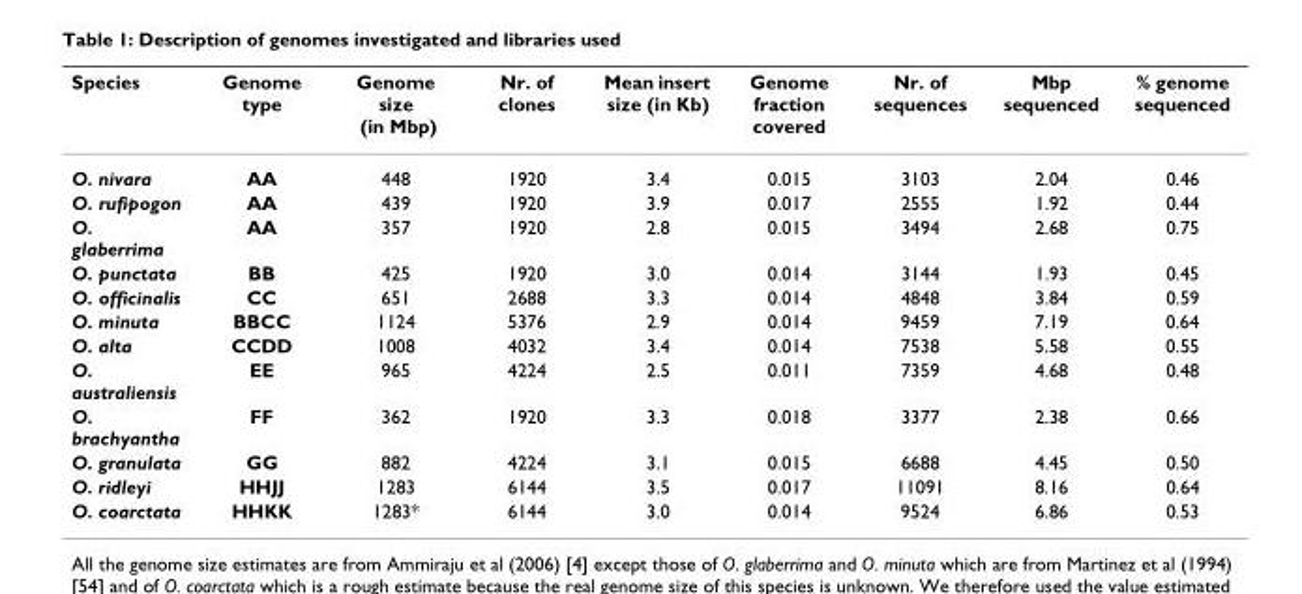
<table><thead><tr><td>Species</td><td>Genome type</td><td>Genome size (in Mbp)</td><td>Nr. of clones</td><td>Mean insert size (in Kb)</td><td>Genome fraction covered</td><td>Nr. of sequences</td><td>Mbp sequenced</td><td>% genome sequenced</td></tr></thead><tbody><tr><td>O. nivara</td><td>AA</td><td>448</td><td>1920</td><td>3.4</td><td>0.015</td><td>3103</td><td>2.04</td><td>0.46</td></tr><tr><td>O. rufipogon</td><td>AA</td><td>439</td><td>1920</td><td>3.9</td><td>0.017</td><td>2555</td><td>1.92</td><td>0.44</td></tr><tr><td>O. glaberrima</td><td>AA</td><td>357</td><td>1920</td><td>2.8</td><td>0.015</td><td>3494</td><td>2.68</td><td>0.75</td></tr><tr><td>O. punctata</td><td>BB</td><td>425</td><td>1920</td><td>3.0</td><td>0.014</td><td>3144</td><td>1.93</td><td>0.45</td></tr><tr><td>O. officinalis</td><td>CC</td><td>651</td><td>2688</td><td>3.3</td><td>0.014</td><td>4848</td><td>3.84</td><td>0.59</td></tr><tr><td>O. minuta</td><td>BBCC</td><td>1124</td><td>5376</td><td>2.9</td><td>0.014</td><td>9459</td><td>7.19</td><td>0.64</td></tr><tr><td>O. alta</td><td>CCDD</td><td>1008</td><td>4032</td><td>3.4</td><td>0.014</td><td>7538</td><td>5.58</td><td>0.55</td></tr><tr><td>O. australiensis</td><td>EE</td><td>965</td><td>4224</td><td>2.5</td><td>0.011</td><td>7359</td><td>4.68</td><td>0.48</td></tr><tr><td>O. brachyantha</td><td>FF</td><td>362</td><td>1920</td><td>3.3</td><td>0.018</td><td>3377</td><td>2.38</td><td>0.66</td></tr><tr><td>O. granulata</td><td>GG</td><td>882</td><td>4224</td><td>3.1</td><td>0.015</td><td>6688</td><td>4.45</td><td>0.50</td></tr><tr><td>O. ridleyi</td><td>HHJJ</td><td>1283</td><td>6144</td><td>3.5</td><td>0.017</td><td>11091</td><td>8.16</td><td>0.64</td></tr><tr><td>O. coarctata</td><td>HHKK</td><td>1283*</td><td>6144</td><td>3.0</td><td>0.014</td><td>9524</td><td>6.86</td><td>0.53</td></tr></tbody></table>